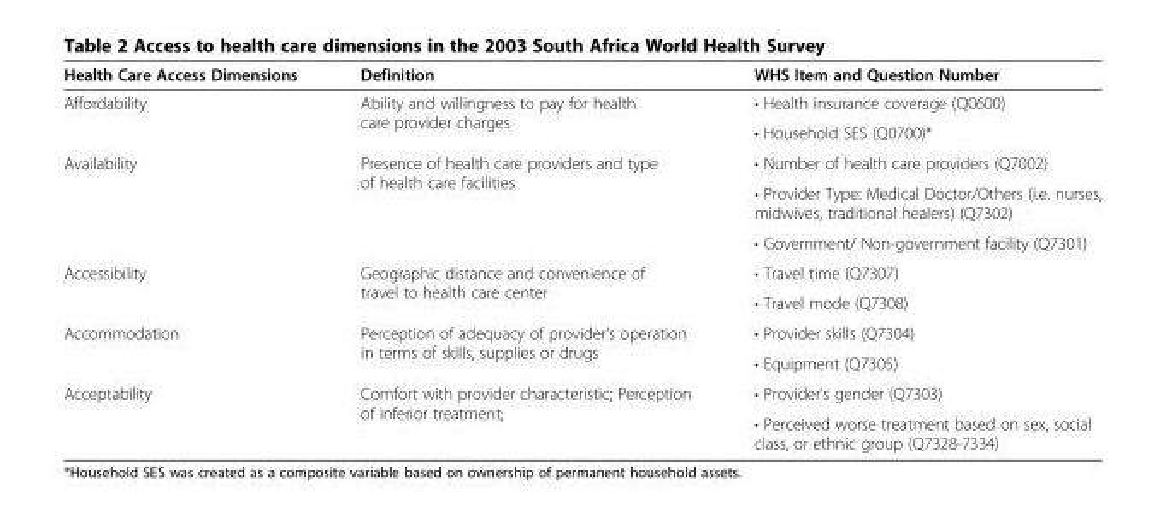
<table><thead><tr><td>Health Care Access Dimensions</td><td>Definition</td><td>WHS Item and Question Number</td></tr></thead><tbody><tr><td rowspan="2">Affordability</td><td rowspan="2">Ability and willingness to pay for health care provider charges</td><td>• Health insurance coverage (Q0600)</td></tr><tr><td>• Household SES (Q0700)*</td></tr><tr><td rowspan="3">Availability</td><td rowspan="3">Presence of health care providers and type of health care facilities</td><td>• Number of health care providers (Q7002)</td></tr><tr><td>• Provider Type: Medical Doctor/Others (i.e. nurses, midwives, traditional healers) (Q7302)</td></tr><tr><td>• Government/ Non-government facility (Q7301)</td></tr><tr><td rowspan="2">Accessibility</td><td rowspan="2">Geographic distance and convenience of travel to health care center</td><td>• Travel time (Q7307)</td></tr><tr><td>• Travel mode (Q7308)</td></tr><tr><td rowspan="2">Accommodation</td><td rowspan="2">Perception of adequacy of provider’s operation in terms of skills, supplies or drugs</td><td>• Provider skills (Q7304)</td></tr><tr><td>• Equipment (Q7305)</td></tr><tr><td rowspan="2">Acceptability</td><td rowspan="2">Comfort with provider characteristic; Perception of inferior treatment;</td><td>• Provider’s gender (Q7303)</td></tr><tr><td>• Perceived worse treatment based on sex, social class, or ethnic group (Q7328-7334)</td></tr></tbody></table>